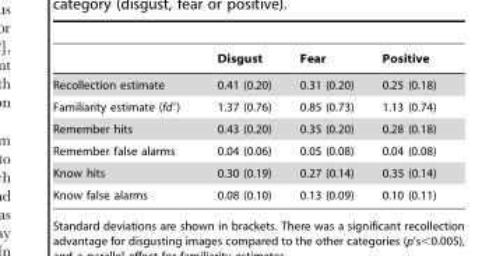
<table><thead><tr><td></td><td>Disgust</td><td>Fear</td><td>Positive</td></tr></thead><tbody><tr><td>Recollection estimate</td><td>0.41 (0.20)</td><td>0.31 (0.20)</td><td>0.25 (0.18)</td></tr><tr><td>Familiarity estimate (fd′)</td><td>1.37 (0.76)</td><td>0.85 (0.73)</td><td>1.13 (0.74)</td></tr><tr><td>Remember hits</td><td>0.43 (0.20)</td><td>0.35 (0.20)</td><td>0.28 (0.18)</td></tr><tr><td>Remember false alarms</td><td>0.04 (0.06)</td><td>0.05 (0.08)</td><td>0.04 (0.08)</td></tr><tr><td>Know hits</td><td>0.30 (0.19)</td><td>0.27 (0.14)</td><td>0.35 (0.14)</td></tr><tr><td>Know false alarms</td><td>0.08 (0.10)</td><td>0.13 (0.09)</td><td>0.10 (0.11)</td></tr></tbody></table>